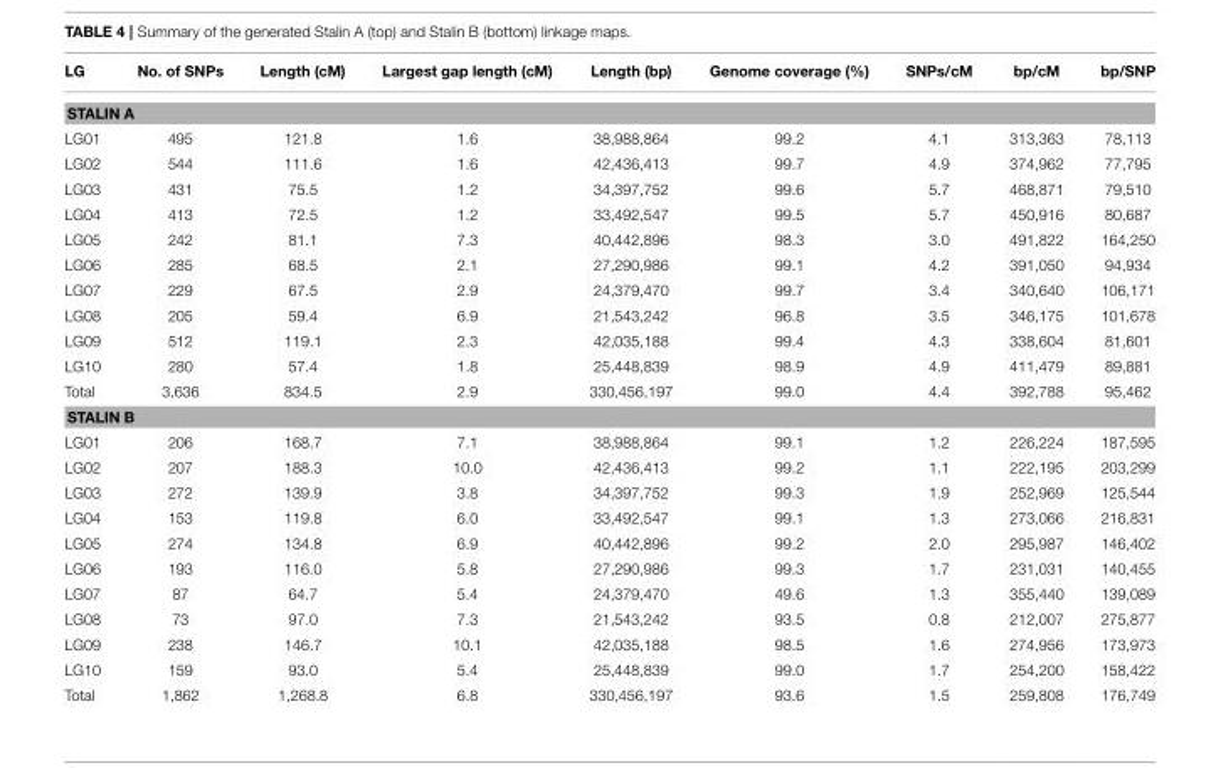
<table><thead><tr><td>LG</td><td>No. of SNPs</td><td>Length (cM)</td><td>Largest gap length (cM)</td><td>Length (bp)</td><td>Genome coverage (%)</td><td>SNPs/cM</td><td>bp/cM</td><td>bp/SNP</td></tr></thead><tbody><tr><td colspan="9">STALIN A</td></tr><tr><td>LG01</td><td>495</td><td>121.8</td><td>1.6</td><td>38,988,864</td><td>99.2</td><td>4.1</td><td>313,363</td><td>78,113</td></tr><tr><td>LG02</td><td>544</td><td>111.6</td><td>1.6</td><td>42,436,413</td><td>99.7</td><td>4.9</td><td>374,962</td><td>77,795</td></tr><tr><td>LG03</td><td>431</td><td>75.5</td><td>1.2</td><td>34,397,752</td><td>99.6</td><td>5.7</td><td>468,871</td><td>79,510</td></tr><tr><td>LG04</td><td>413</td><td>72.5</td><td>1.2</td><td>33,492,547</td><td>99.5</td><td>5.7</td><td>450,916</td><td>80,687</td></tr><tr><td>LG05</td><td>242</td><td>81.1</td><td>7.3</td><td>40,442,896</td><td>98.3</td><td>3.0</td><td>491,822</td><td>164,250</td></tr><tr><td>LG06</td><td>285</td><td>68.5</td><td>2.1</td><td>27,290,986</td><td>99.1</td><td>4.2</td><td>391,050</td><td>94,934</td></tr><tr><td>LG07</td><td>229</td><td>67.5</td><td>2.9</td><td>24,379,470</td><td>99.7</td><td>3.4</td><td>340,640</td><td>106,171</td></tr><tr><td>LG08</td><td>205</td><td>59.4</td><td>6.9</td><td>21,543,242</td><td>96.8</td><td>3.5</td><td>346,175</td><td>101,678</td></tr><tr><td>LG09</td><td>512</td><td>119.1</td><td>2.3</td><td>42,035,188</td><td>99.4</td><td>4.3</td><td>338,604</td><td>81,601</td></tr><tr><td>LG10</td><td>280</td><td>57.4</td><td>1.8</td><td>25,448,839</td><td>98.9</td><td>4.9</td><td>411,479</td><td>89,881</td></tr><tr><td>Total</td><td>3,636</td><td>834.5</td><td>2.9</td><td>330,456,197</td><td>99.0</td><td>4.4</td><td>392,788</td><td>95,462</td></tr><tr><td colspan="9">STALIN B</td></tr><tr><td>LG01</td><td>206</td><td>168.7</td><td>7.1</td><td>38,988,864</td><td>99.1</td><td>1.2</td><td>226,224</td><td>187,595</td></tr><tr><td>LG02</td><td>207</td><td>188.3</td><td>10.0</td><td>42,436,413</td><td>99.2</td><td>1.1</td><td>222,195</td><td>203,299</td></tr><tr><td>LG03</td><td>272</td><td>139.9</td><td>3.8</td><td>34,397,752</td><td>99.3</td><td>1.9</td><td>252,969</td><td>125,544</td></tr><tr><td>LG04</td><td>153</td><td>119.8</td><td>6.0</td><td>33,492,547</td><td>99.1</td><td>1.3</td><td>273,066</td><td>216,831</td></tr><tr><td>LG05</td><td>274</td><td>134.8</td><td>6.9</td><td>40,442,896</td><td>99.2</td><td>2.0</td><td>295,987</td><td>146,402</td></tr><tr><td>LG06</td><td>193</td><td>116.0</td><td>5.8</td><td>27,290,986</td><td>99.3</td><td>1.7</td><td>231,031</td><td>140,455</td></tr><tr><td>LG07</td><td>87</td><td>64.7</td><td>5.4</td><td>24,379,470</td><td>49.6</td><td>1.3</td><td>355,440</td><td>139,089</td></tr><tr><td>LG08</td><td>73</td><td>97.0</td><td>7.3</td><td>21,543,242</td><td>93.5</td><td>0.8</td><td>212,007</td><td>275,877</td></tr><tr><td>LG09</td><td>238</td><td>146.7</td><td>10.1</td><td>42,035,188</td><td>98.5</td><td>1.6</td><td>274,956</td><td>173,973</td></tr><tr><td>LG10</td><td>159</td><td>93.0</td><td>5.4</td><td>25,448,839</td><td>99.0</td><td>1.7</td><td>254,200</td><td>158,422</td></tr><tr><td>Total</td><td>1,862</td><td>1,268.8</td><td>6.8</td><td>330,456,197</td><td>93.6</td><td>1.5</td><td>259,808</td><td>176,749</td></tr></tbody></table>